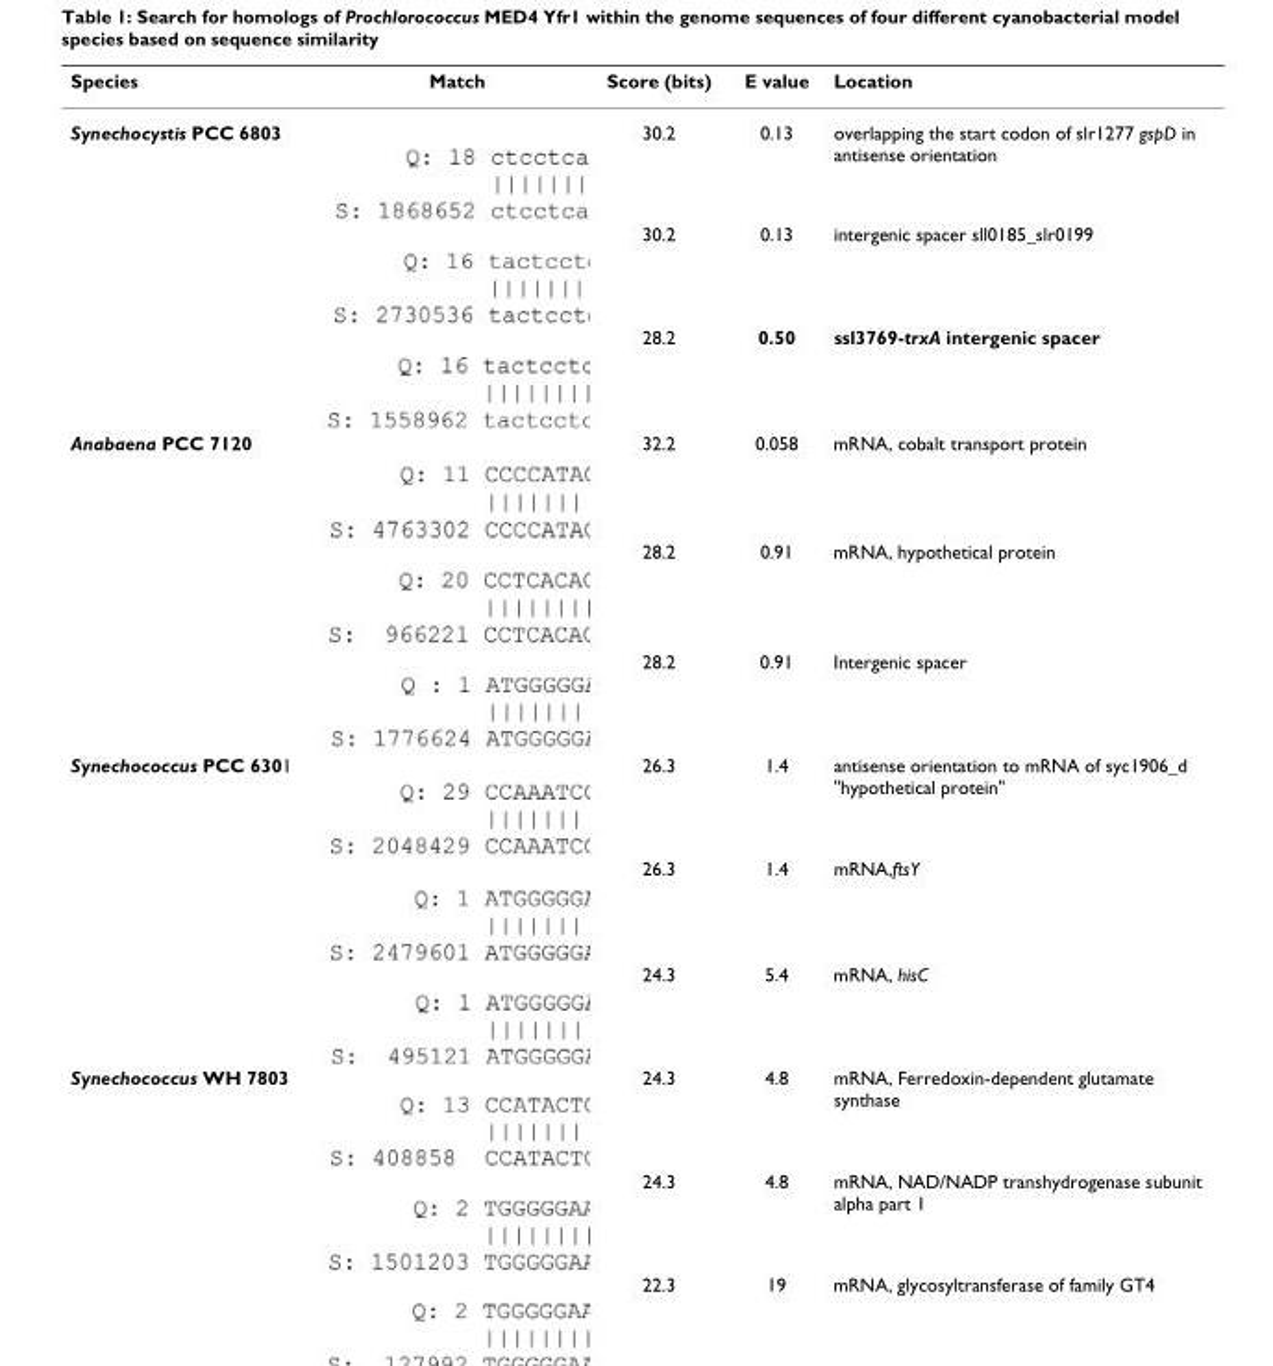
<table><thead><tr><td>Species</td><td>Match</td><td>Score (bits)</td><td>E value</td><td>Location</td></tr></thead><tbody><tr><td rowspan="3">Synechocystis PCC 6803</td><td></td><td>30.2</td><td>0.13</td><td>overlapping the start codon of slr1277 gspD in antisense orientation</td></tr><tr><td></td><td>30.2</td><td>0.13</td><td>intergenic spacer sll0185_slr0199</td></tr><tr><td></td><td>28.2</td><td>0.50</td><td>ssl3769-trxA intergenic spacer</td></tr><tr><td rowspan="3">Anabaena PCC 7120</td><td></td><td>32.2</td><td>0.058</td><td>mRNA, cobalt transport protein</td></tr><tr><td></td><td>28.2</td><td>0.91</td><td>mRNA, hypothetical protein</td></tr><tr><td></td><td>28.2</td><td>0.91</td><td>Intergenic spacer</td></tr><tr><td rowspan="3">Synechococcus PCC 6301</td><td></td><td>26.3</td><td>1.4</td><td>antisense orientation to mRNA of syc1906_d &quot;hypothetical protein&quot;</td></tr><tr><td></td><td>26.3</td><td>1.4</td><td>mRNA,ftsY</td></tr><tr><td></td><td>24.3</td><td>5.4</td><td>mRNA, hisC</td></tr><tr><td rowspan="3">Synechococcus WH 7803</td><td></td><td>24.3</td><td>4.8</td><td>mRNA, Ferredoxin-dependent glutamate synthase</td></tr><tr><td></td><td>24.3</td><td>4.8</td><td>mRNA, NAD/NADP transhydrogenase subunit alpha part 1</td></tr><tr><td></td><td>22.3</td><td>19</td><td>mRNA, glycosyltransferase of family GT4</td></tr></tbody></table>